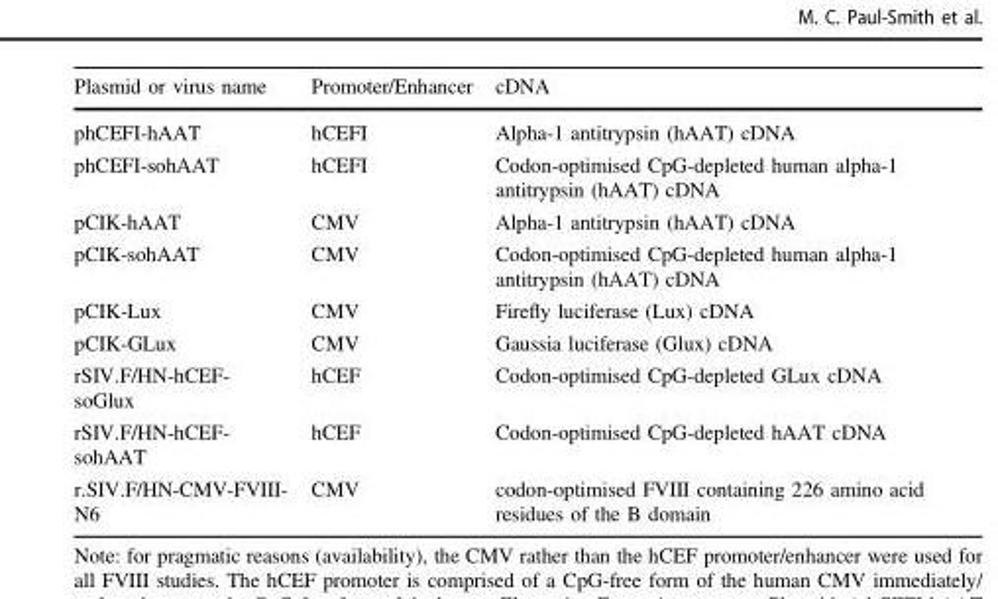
<table><thead><tr><td>Plasmid or virus name</td><td>Promoter/Enhancer</td><td>cDNA</td></tr></thead><tbody><tr><td>phCEFI-hAAT</td><td>hCEFI</td><td>Alpha-1 antitrypsin (hAAT) cDNA</td></tr><tr><td>phCEFI-sohAAT</td><td>hCEFI</td><td>Codon-optimised CpG-depleted human alpha-1 antitrypsin (hAAT) cDNA</td></tr><tr><td>pCIK-hAAT</td><td>CMV</td><td>Alpha-1 antitrypsin (hAAT) cDNA</td></tr><tr><td>pCIK-sohAAT</td><td>CMV</td><td>Codon-optimised CpG-depleted human alpha-1 antitrypsin (hAAT) cDNA</td></tr><tr><td>pCIK-Lux</td><td>CMV</td><td>Firefly luciferase (Lux) cDNA</td></tr><tr><td>pCIK-GLux</td><td>CMV</td><td>Gaussia luciferase (Glux) cDNA</td></tr><tr><td>rSIV.F/HN-hCEF- soGlux</td><td>hCEF</td><td>Codon-optimised CpG-depleted GLux cDNA</td></tr><tr><td>rSIV.F/HN-hCEF- sohAAT</td><td>hCEF</td><td>Codon-optimised CpG-depleted hAAT cDNA</td></tr><tr><td>r.SIV.F/HN-CMV-FVIII- N6</td><td>CMV</td><td>codon-optimised FVIII containing 226 amino acid residues of the B domain</td></tr></tbody></table>